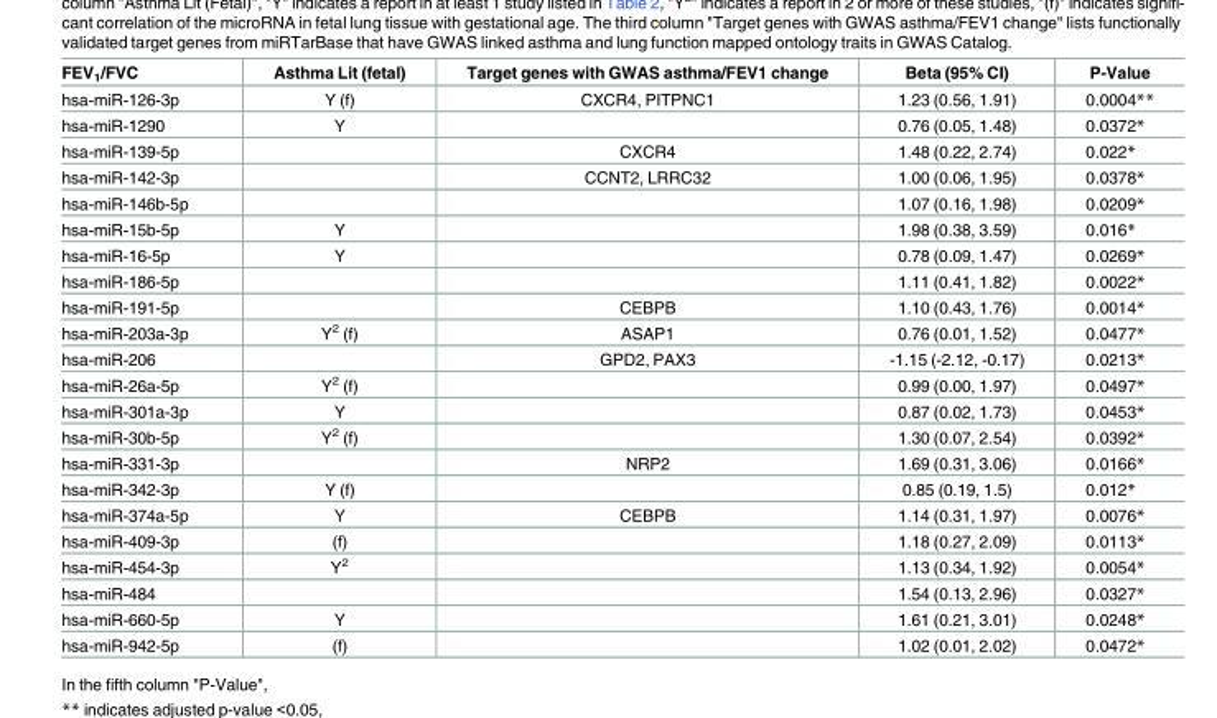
<table><thead><tr><td>FEV<sub>1</sub>/FVC</td><td>Asthma Lit (fetal)</td><td>Target genes with GWAS asthma/FEV1 change</td><td>Beta (95% CI)</td><td>P-Value</td></tr></thead><tbody><tr><td>hsa-miR-126-3p</td><td>Y (f)</td><td>CXCR4, PITPNC1</td><td>1.23 (0.56, 1.91)</td><td>0.0004**</td></tr><tr><td>hsa-miR-1290</td><td>Y</td><td></td><td>0.76 (0.05, 1.48)</td><td>0.0372*</td></tr><tr><td>hsa-miR-139-5p</td><td></td><td>CXCR4</td><td>1.48 (0.22, 2.74)</td><td>0.022*</td></tr><tr><td>hsa-miR-142-3p</td><td></td><td>CCNT2, LRRC32</td><td>1.00 (0.06, 1.95)</td><td>0.0378*</td></tr><tr><td>hsa-miR-146b-5p</td><td></td><td></td><td>1.07 (0.16, 1.98)</td><td>0.0209*</td></tr><tr><td>hsa-miR-15b-5p</td><td>Y</td><td></td><td>1.98 (0.38, 3.59)</td><td>0.016*</td></tr><tr><td>hsa-miR-16-5p</td><td>Y</td><td></td><td>0.78 (0.09, 1.47)</td><td>0.0269*</td></tr><tr><td>hsa-miR-186-5p</td><td></td><td></td><td>1.11 (0.41, 1.82)</td><td>0.0022*</td></tr><tr><td>hsa-miR-191-5p</td><td></td><td>CEBPB</td><td>1.10 (0.43, 1.76)</td><td>0.0014*</td></tr><tr><td>hsa-miR-203a-3p</td><td>Y<sup>2</sup> (f)</td><td>ASAP1</td><td>0.76 (0.01, 1.52)</td><td>0.0477*</td></tr><tr><td>hsa-miR-206</td><td></td><td>GPD2, PAX3</td><td>-1.15 (-2.12, -0.17)</td><td>0.0213*</td></tr><tr><td>hsa-miR-26a-5p</td><td>Y<sup>2</sup> (f)</td><td></td><td>0.99 (0.00, 1.97)</td><td>0.0497*</td></tr><tr><td>hsa-miR-301a-3p</td><td>Y</td><td></td><td>0.87 (0.02, 1.73)</td><td>0.0453*</td></tr><tr><td>hsa-miR-30b-5p</td><td>Y<sup>2</sup> (f)</td><td></td><td>1.30 (0.07, 2.54)</td><td>0.0392*</td></tr><tr><td>hsa-miR-331-3p</td><td></td><td>NRP2</td><td>1.69 (0.31, 3.06)</td><td>0.0166*</td></tr><tr><td>hsa-miR-342-3p</td><td>Y (f)</td><td></td><td>0.85 (0.19, 1.5)</td><td>0.012*</td></tr><tr><td>hsa-miR-374a-5p</td><td>Y</td><td>CEBPB</td><td>1.14 (0.31, 1.97)</td><td>0.0076*</td></tr><tr><td>hsa-miR-409-3p</td><td>(f)</td><td></td><td>1.18 (0.27, 2.09)</td><td>0.0113*</td></tr><tr><td>hsa-miR-454-3p</td><td>Y<sup>2</sup></td><td></td><td>1.13 (0.34, 1.92)</td><td>0.0054*</td></tr><tr><td>hsa-miR-484</td><td></td><td></td><td>1.54 (0.13, 2.96)</td><td>0.0327*</td></tr><tr><td>hsa-miR-660-5p</td><td>Y</td><td></td><td>1.61 (0.21, 3.01)</td><td>0.0248*</td></tr><tr><td>hsa-miR-942-5p</td><td>(f)</td><td></td><td>1.02 (0.01, 2.02)</td><td>0.0472*</td></tr></tbody></table>